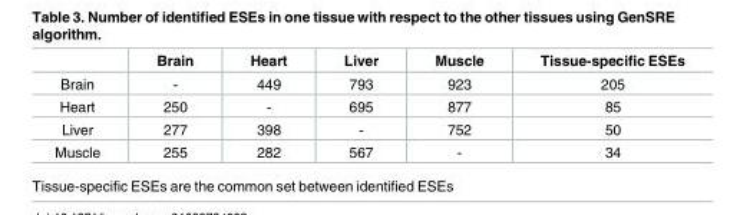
<table><thead><tr><td></td><td>Brain</td><td>Heart</td><td>Liver</td><td>Muscle</td><td>Tissue-specific ESEs</td></tr></thead><tbody><tr><td>Brain</td><td>-</td><td>449</td><td>793</td><td>923</td><td>205</td></tr><tr><td>Heart</td><td>250</td><td>-</td><td>695</td><td>877</td><td>85</td></tr><tr><td>Liver</td><td>277</td><td>398</td><td>-</td><td>752</td><td>50</td></tr><tr><td>Muscle</td><td>255</td><td>282</td><td>567</td><td>-</td><td>34</td></tr></tbody></table>